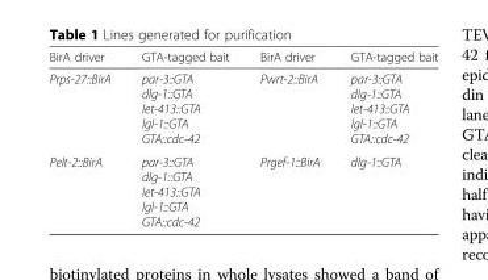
<table><thead><tr><td>BirA driver</td><td>GTA-tagged bait</td><td>BirA driver</td><td>GTA-tagged bait</td></tr></thead><tbody><tr><td>Prps-27::BirA</td><td>par-3::GTA dlg-1::GTA let-413::GTA lgl-1::GTA GTA::cdc-42</td><td>Pwrt-2::BirA</td><td>par-3::GTA dlg-1::GTA let-413::GTA lgl-1::GTA GTA::cdc-42</td></tr><tr><td>Pelt-2::BirA</td><td>par-3::GTA dlg-1::GTA let-413::GTA lgl-1::GTA GTA::cdc-42</td><td>Prgef-1::BirA</td><td>dlg-1::GTA</td></tr></tbody></table>